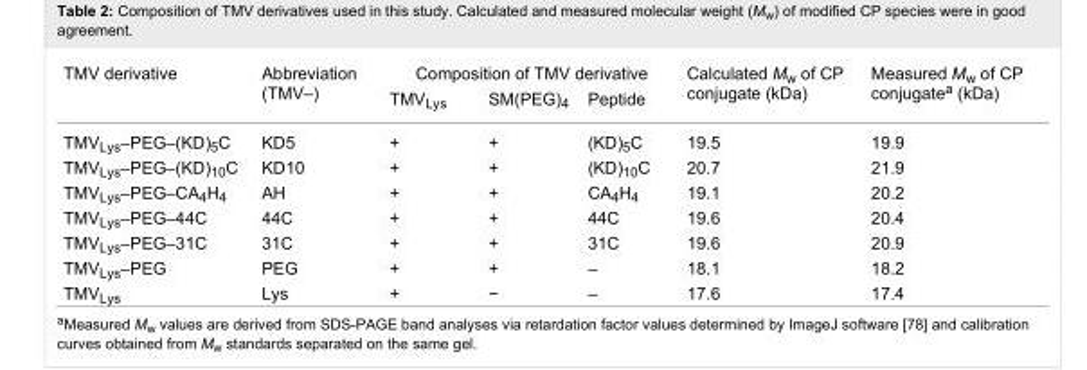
<table><tbody><tr><td rowspan="2">TMV derivative</td><td rowspan="2">Abbreviation (TMV–)</td><td colspan="3">Composition of TMV derivative</td><td rowspan="2">Calculated M<sub>w</sub> of CP conjugate (kDa)</td><td rowspan="2">Measured M<sub>w</sub> of CP conjugate<sup>a</sup> (kDa)</td></tr><tr><td>TMV<sub>Lys</sub></td><td>SM(PEG)<sub>4</sub></td><td>Peptide</td></tr><tr><td>TMV<sub>Lys</sub>–PEG–(KD)<sub>5</sub>C</td><td>KD5</td><td>+</td><td>+</td><td>(KD)<sub>5</sub>C</td><td>19.5</td><td>19.9</td></tr><tr><td>TMV<sub>Lys</sub>–PEG–(KD)<sub>10</sub>C</td><td>KD10</td><td>+</td><td>+</td><td>(KD)<sub>10</sub>C</td><td>20.7</td><td>21.9</td></tr><tr><td>TMV<sub>Lys</sub>–PEG–CA<sub>4</sub>H<sub>4</sub></td><td>AH</td><td>+</td><td>+</td><td>CA<sub>4</sub>H<sub>4</sub></td><td>19.1</td><td>20.2</td></tr><tr><td>TMV<sub>Lys</sub>–PEG–44C</td><td>44C</td><td>+</td><td>+</td><td>44C</td><td>19.6</td><td>20.4</td></tr><tr><td>TMV<sub>Lys</sub>–PEG–31C</td><td>31C</td><td>+</td><td>+</td><td>31C</td><td>19.6</td><td>20.9</td></tr><tr><td>TMV<sub>Lys</sub>–PEG</td><td>PEG</td><td>+</td><td>+</td><td>–</td><td>18.1</td><td>18.2</td></tr><tr><td>TMV<sub>Lys</sub></td><td>Lys</td><td>+</td><td>−</td><td>–</td><td>17.6</td><td>17.4</td></tr></tbody></table>